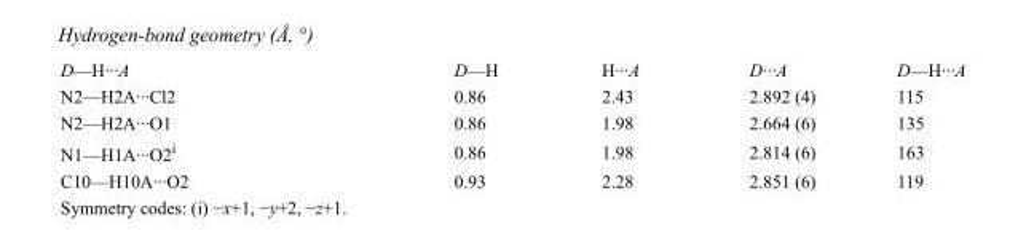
<table><tbody><tr><td>D—H···A</td><td>D—H</td><td>H···A</td><td>D···A</td><td>D—H···A</td></tr><tr><td>N2—H2A···Cl2</td><td>0.86</td><td>2.43</td><td>2.892 (4)</td><td>115</td></tr><tr><td>N2—H2A···O1</td><td>0.86</td><td>1.98</td><td>2.664 (6)</td><td>135</td></tr><tr><td>N1—H1A···O2<sup>i</sup></td><td>0.86</td><td>1.98</td><td>2.814 (6)</td><td>163</td></tr><tr><td>C10—H10A···O2</td><td>0.93</td><td>2.28</td><td>2.851 (6)</td><td>119</td></tr></tbody></table>